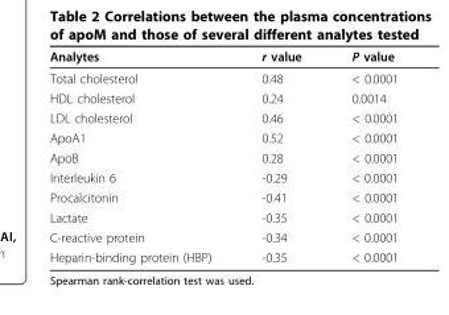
<table><thead><tr><td>Analytes</td><td>r value</td><td>P value</td></tr></thead><tbody><tr><td>Total cholesterol</td><td>0.48</td><td>&lt; 0.0001</td></tr><tr><td>HDL cholesterol</td><td>0.24</td><td>0.0014</td></tr><tr><td>LDL cholesterol</td><td>0.46</td><td>&lt; 0.0001</td></tr><tr><td>ApoA1</td><td>0.52</td><td>&lt; 0.0001</td></tr><tr><td>ApoB</td><td>0.28</td><td>&lt; 0.0001</td></tr><tr><td>Interleukin 6</td><td>-0.29</td><td>&lt; 0.0001</td></tr><tr><td>Procalcitonin</td><td>-0.41</td><td>&lt; 0.0001</td></tr><tr><td>Lactate</td><td>-0.35</td><td>&lt; 0.0001</td></tr><tr><td>C-reactive protein</td><td>-0.34</td><td>&lt; 0.0001</td></tr><tr><td>Heparin-binding protein (HBP)</td><td>-0.35</td><td>&lt; 0.0001</td></tr></tbody></table>